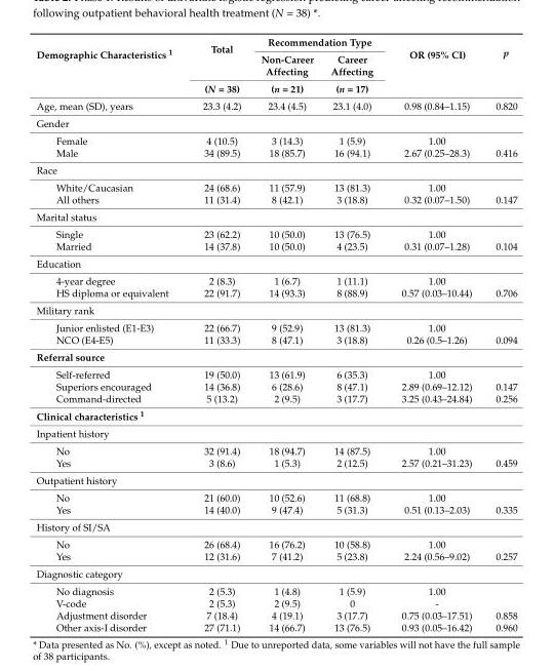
<table><thead><tr><td rowspan="3">Demographic Characteristics <sup>1</sup></td><td rowspan="3">Total (N = 38)</td><td colspan="2">Recommendation Type</td><td rowspan="3">OR (95% CI)</td><td rowspan="3">p</td></tr><tr><td rowspan="2">Non-Career Affecting (n = 21)</td><td rowspan="2">Career Affecting (n = 17)</td></tr><tr></tr></thead><tbody><tr><td>Age, mean (SD), years</td><td>23.3 (4.2)</td><td>23.4 (4.5)</td><td>23.1 (4.0)</td><td>0.98 (0.84–1.15)</td><td>0.820</td></tr><tr><td colspan="6">Gender</td></tr><tr><td>Female</td><td>4 (10.5)</td><td>3 (14.3)</td><td>1 (5.9)</td><td>1.00</td><td></td></tr><tr><td>Male</td><td>34 (89.5)</td><td>18 (85.7)</td><td>16 (94.1)</td><td>2.67 (0.25–28.3)</td><td>0.416</td></tr><tr><td colspan="6">Race</td></tr><tr><td>White/Caucasian</td><td>24 (68.6)</td><td>11 (57.9)</td><td>13 (81.3)</td><td>1.00</td><td></td></tr><tr><td>All others</td><td>11 (31.4)</td><td>8 (42.1)</td><td>3 (18.8)</td><td>0.32 (0.07–1.50)</td><td>0.147</td></tr><tr><td colspan="6">Marital status</td></tr><tr><td>Single</td><td>23 (62.2)</td><td>10 (50.0)</td><td>13 (76.5)</td><td>1.00</td><td></td></tr><tr><td>Married</td><td>14 (37.8)</td><td>10 (50.0)</td><td>4 (23.5)</td><td>0.31 (0.07–1.28)</td><td>0.104</td></tr><tr><td colspan="6">Education</td></tr><tr><td>4-year degree</td><td>2 (8.3)</td><td>1 (6.7)</td><td>1 (11.1)</td><td>1.00</td><td></td></tr><tr><td>HS diploma or equivalent</td><td>22 (91.7)</td><td>14 (93.3)</td><td>8 (88.9)</td><td>0.57 (0.03–10.44)</td><td>0.706</td></tr><tr><td colspan="6">Military rank</td></tr><tr><td>Junior enlisted (E1-E3)</td><td>22 (66.7)</td><td>9 (52.9)</td><td>13 (81.3)</td><td>1.00</td><td></td></tr><tr><td>NCO (E4-E5)</td><td>11 (33.3)</td><td>8 (47.1)</td><td>3 (18.8)</td><td>0.26 (0.5–1.26)</td><td>0.094</td></tr><tr><td colspan="6">Referral source</td></tr><tr><td>Self-referred</td><td>19 (50.0)</td><td>13 (61.9)</td><td>6 (35.3)</td><td>1.00</td><td></td></tr><tr><td>Superiors encouraged</td><td>14 (36.8)</td><td>6 (28.6)</td><td>8 (47.1)</td><td>2.89 (0.69–12.12)</td><td>0.147</td></tr><tr><td>Command-directed</td><td>5 (13.2)</td><td>2 (9.5)</td><td>3 (17.7)</td><td>3.25 (0.43–24.84)</td><td>0.256</td></tr><tr><td colspan="6">Clinical characteristics <sup>1</sup></td></tr><tr><td colspan="6">Inpatient history</td></tr><tr><td>No</td><td>32 (91.4)</td><td>18 (94.7)</td><td>14 (87.5)</td><td>1.00</td><td></td></tr><tr><td>Yes</td><td>3 (8.6)</td><td>1 (5.3)</td><td>2 (12.5)</td><td>2.57 (0.21–31.23)</td><td>0.459</td></tr><tr><td colspan="6">Outpatient history</td></tr><tr><td>No</td><td>21 (60.0)</td><td>10 (52.6)</td><td>11 (68.8)</td><td>1.00</td><td></td></tr><tr><td>Yes</td><td>14 (40.0)</td><td>9 (47.4)</td><td>5 (31.3)</td><td>0.51 (0.13–2.03)</td><td>0.335</td></tr><tr><td colspan="6">History of SI/SA</td></tr><tr><td>No</td><td>26 (68.4)</td><td>16 (76.2)</td><td>10 (58.8)</td><td>1.00</td><td></td></tr><tr><td>Yes</td><td>12 (31.6)</td><td>7 (41.2)</td><td>5 (23.8)</td><td>2.24 (0.56–9.02)</td><td>0.257</td></tr><tr><td colspan="6">Diagnostic category</td></tr><tr><td>No diagnosis</td><td>2 (5.3)</td><td>1 (4.8)</td><td>1 (5.9)</td><td>1.00</td><td></td></tr><tr><td>V-code</td><td>2 (5.3)</td><td>2 (9.5)</td><td>0</td><td>-</td><td></td></tr><tr><td>Adjustment disorder</td><td>7 (18.4)</td><td>4 (19.1)</td><td>3 (17.7)</td><td>0.75 (0.03–17.51)</td><td>0.858</td></tr><tr><td>Other axis-I disorder</td><td>27 (71.1)</td><td>14 (66.7)</td><td>13 (76.5)</td><td>0.93 (0.05–16.42)</td><td>0.960</td></tr></tbody></table>